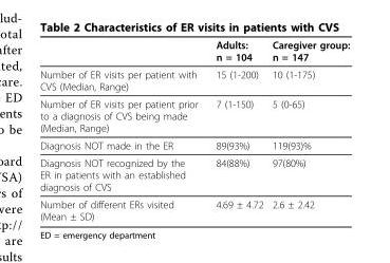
<table><thead><tr><td></td><td>Adults: n = 104</td><td>Caregiver group: n = 147</td></tr></thead><tbody><tr><td>Number of ER visits per patient with CVS (Median, Range)</td><td>15 (1-200)</td><td>10 (1-175)</td></tr><tr><td>Number of ER visits per patient prior to a diagnosis of CVS being made (Median, Range)</td><td>7 (1-150)</td><td>5 (0-65)</td></tr><tr><td>Diagnosis NOT made in the ER</td><td>89(93%)</td><td>119(93)%</td></tr><tr><td>Diagnosis NOT recognized by the ER in patients with an established diagnosis of CVS</td><td>84(88%)</td><td>97(80%)</td></tr><tr><td>Number of different ERs visited (Mean ± SD)</td><td>4.69 ± 4.72</td><td>2.6 ± 2.42</td></tr></tbody></table>